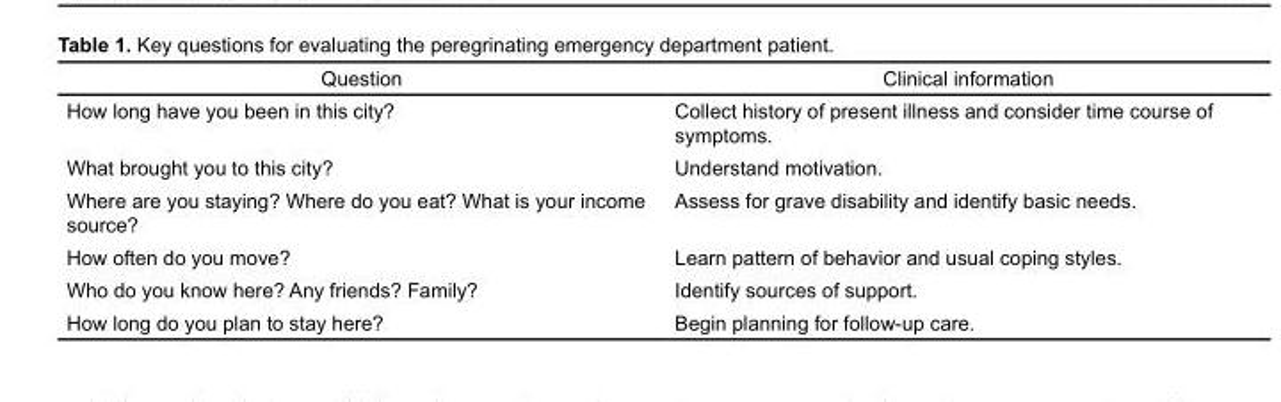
<table><thead><tr><td>Question</td><td>Clinical information</td></tr></thead><tbody><tr><td>How long have you been in this city?</td><td>Collect history of present illness and consider time course of symptoms.</td></tr><tr><td>What brought you to this city?</td><td>Understand motivation.</td></tr><tr><td>Where are you staying? Where do you eat? What is your income source?</td><td>Assess for grave disability and identify basic needs.</td></tr><tr><td>How often do you move?</td><td>Learn pattern of behavior and usual coping styles.</td></tr><tr><td>Who do you know here? Any friends? Family?</td><td>Identify sources of support.</td></tr><tr><td>How long do you plan to stay here?</td><td>Begin planning for follow-up care.</td></tr></tbody></table>